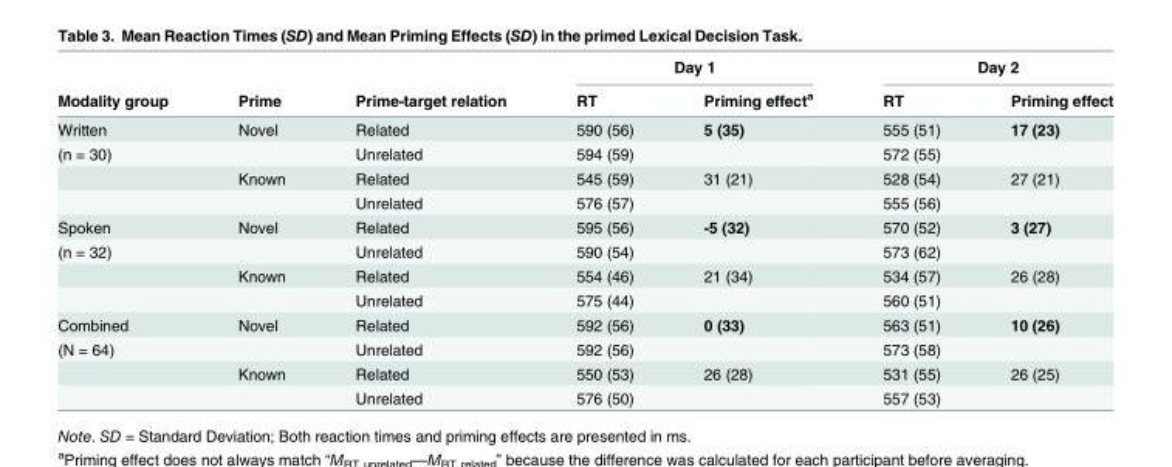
<table><thead><tr><td rowspan="2">Modality group</td><td rowspan="2">Prime</td><td rowspan="2">Prime-target relation</td><td colspan="2">Day 1</td><td colspan="2">Day 2</td></tr><tr><td>RT</td><td>Priming effect<sup>a</sup></td><td>RT</td><td>Priming effect</td></tr></thead><tbody><tr><td>Written</td><td>Novel</td><td>Related</td><td>590 (56)</td><td>5 (35)</td><td>555 (51)</td><td>17 (23)</td></tr><tr><td rowspan="3">(n = 30)</td><td></td><td>Unrelated</td><td>594 (59)</td><td></td><td>572 (55)</td><td></td></tr><tr><td>Known</td><td>Related</td><td>545 (59)</td><td>31 (21)</td><td>528 (54)</td><td>27 (21)</td></tr><tr><td></td><td>Unrelated</td><td>576 (57)</td><td></td><td>555 (56)</td><td></td></tr><tr><td>Spoken</td><td>Novel</td><td>Related</td><td>595 (56)</td><td>-5 (32)</td><td>570 (52)</td><td>3 (27)</td></tr><tr><td rowspan="3">(n = 32)</td><td></td><td>Unrelated</td><td>590 (54)</td><td></td><td>573 (62)</td><td></td></tr><tr><td>Known</td><td>Related</td><td>554 (46)</td><td>21 (34)</td><td>534 (57)</td><td>26 (28)</td></tr><tr><td></td><td>Unrelated</td><td>575 (44)</td><td></td><td>560 (51)</td><td></td></tr><tr><td>Combined</td><td>Novel</td><td>Related</td><td>592 (56)</td><td>0 (33)</td><td>563 (51)</td><td>10 (26)</td></tr><tr><td rowspan="3">(N = 64)</td><td></td><td>Unrelated</td><td>592 (56)</td><td></td><td>573 (58)</td><td></td></tr><tr><td>Known</td><td>Related</td><td>550 (53)</td><td>26 (28)</td><td>531 (55)</td><td>26 (25)</td></tr><tr><td></td><td>Unrelated</td><td>576 (50)</td><td></td><td>557 (53)</td><td></td></tr></tbody></table>